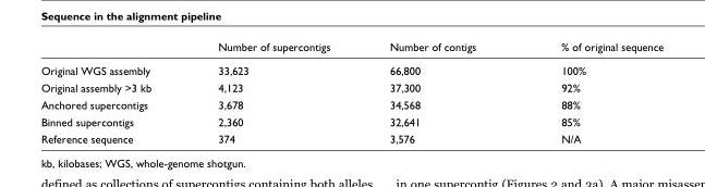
<table><thead><tr><td></td><td>Number of supercontigs</td><td>Number of contigs</td><td>% of original sequence</td></tr></thead><tbody><tr><td>Original WGS assembly</td><td>33,623</td><td>66,800</td><td>100%</td></tr><tr><td>Original assembly &gt;3 kb</td><td>4,123</td><td>37,300</td><td>92%</td></tr><tr><td>Anchored supercontigs</td><td>3,678</td><td>34,568</td><td>88%</td></tr><tr><td>Binned supercontigs</td><td>2,360</td><td>32,641</td><td>85%</td></tr><tr><td>Reference sequence</td><td>374</td><td>3,576</td><td>N/A</td></tr></tbody></table>